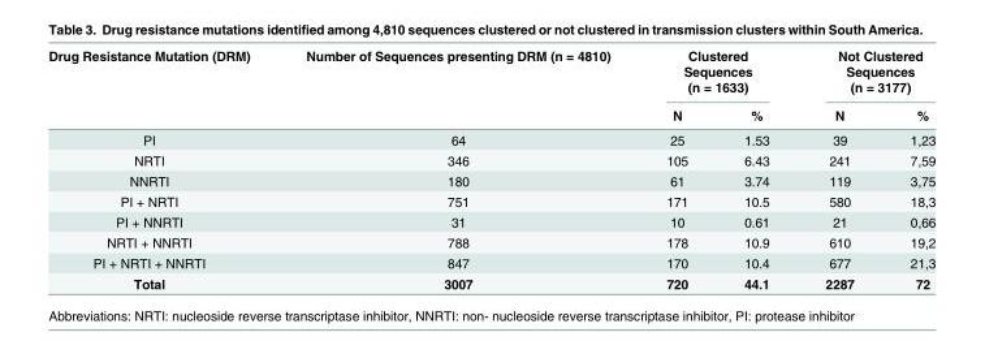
<table><thead><tr><td rowspan="2">Drug Resistance Mutation (DRM)</td><td rowspan="2">Number of Sequences presenting DRM (n = 4810)</td><td colspan="2">Clustered Sequences (n = 1633)</td><td colspan="2">Not Clustered Sequences (n = 3177)</td></tr><tr><td>N</td><td>%</td><td>N</td><td>%</td></tr></thead><tbody><tr><td>PI</td><td>64</td><td>25</td><td>1.53</td><td>39</td><td>1,23</td></tr><tr><td>NRTI</td><td>346</td><td>105</td><td>6.43</td><td>241</td><td>7,59</td></tr><tr><td>NNRTI</td><td>180</td><td>61</td><td>3.74</td><td>119</td><td>3,75</td></tr><tr><td>PI + NRTI</td><td>751</td><td>171</td><td>10.5</td><td>580</td><td>18,3</td></tr><tr><td>PI + NNRTI</td><td>31</td><td>10</td><td>0.61</td><td>21</td><td>0,66</td></tr><tr><td>NRTI + NNRTI</td><td>788</td><td>178</td><td>10.9</td><td>610</td><td>19,2</td></tr><tr><td>PI + NRTI + NNRTI</td><td>847</td><td>170</td><td>10.4</td><td>677</td><td>21,3</td></tr><tr><td>Total</td><td>3007</td><td>720</td><td>44.1</td><td>2287</td><td>72</td></tr></tbody></table>